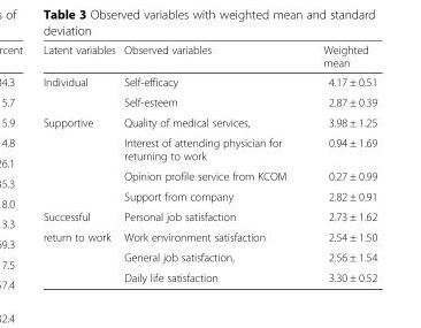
<table><thead><tr><td>Latent variables</td><td>Observed variables</td><td>Weighted mean</td></tr></thead><tbody><tr><td rowspan="2">Individual</td><td>Self-efficacy</td><td>4.17 ± 0.51</td></tr><tr><td>Self-esteem</td><td>2.87 ± 0.39</td></tr><tr><td rowspan="4">Supportive</td><td>Quality of medical services,</td><td>3.98 ± 1.25</td></tr><tr><td>Interest of attending physician for returning to work</td><td>0.94 ± 1.69</td></tr><tr><td>Opinion profile service from KCOM</td><td>0.27 ± 0.99</td></tr><tr><td>Support from company</td><td>2.82 ± 0.91</td></tr><tr><td>Successful</td><td>Personal job satisfaction</td><td>2.73 ± 1.62</td></tr><tr><td rowspan="3">return to work</td><td>Work environment satisfaction</td><td>2.54 ± 1.50</td></tr><tr><td>General job satisfaction,</td><td>2.56 ± 1.54</td></tr><tr><td>Daily life satisfaction</td><td>3.30 ± 0.52</td></tr></tbody></table>